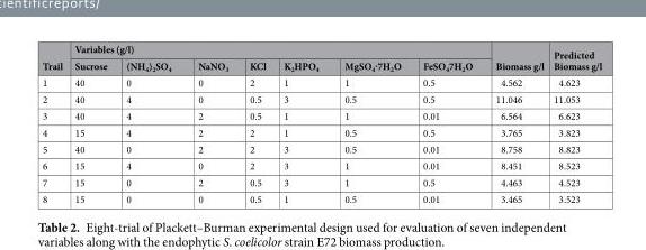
<table><thead><tr><td rowspan="2">Trail</td><td colspan="7">Variables (g/l)</td><td rowspan="2">Biomass g/l</td><td rowspan="2">Predicted Biomass g/l</td></tr><tr><td>Sucrose</td><td>(NH<sub>4</sub>)<sub>2</sub>SO<sub>4</sub></td><td>NaNO<sub>3</sub></td><td>KCl</td><td>K<sub>2</sub>HPO<sub>4</sub></td><td>MgSO<sub>4</sub>·7H<sub>2</sub>O</td><td>FeSO<sub>4</sub>7H<sub>2</sub>O</td></tr></thead><tbody><tr><td>1</td><td>40</td><td>0</td><td>0</td><td>2</td><td>1</td><td>1</td><td>0.5</td><td>4.562</td><td>4.623</td></tr><tr><td>2</td><td>40</td><td>4</td><td>0</td><td>0.5</td><td>3</td><td>0.5</td><td>0.5</td><td>11.046</td><td>11.053</td></tr><tr><td>3</td><td>40</td><td>4</td><td>2</td><td>0.5</td><td>1</td><td>1</td><td>0.01</td><td>6.564</td><td>6.623</td></tr><tr><td>4</td><td>15</td><td>4</td><td>2</td><td>2</td><td>1</td><td>0.5</td><td>0.5</td><td>3.765</td><td>3.823</td></tr><tr><td>5</td><td>40</td><td>0</td><td>2</td><td>2</td><td>3</td><td>0.5</td><td>0.01</td><td>8.758</td><td>8.823</td></tr><tr><td>6</td><td>15</td><td>4</td><td>0</td><td>2</td><td>3</td><td>1</td><td>0.01</td><td>8.451</td><td>8.523</td></tr><tr><td>7</td><td>15</td><td>0</td><td>2</td><td>0.5</td><td>3</td><td>1</td><td>0.5</td><td>4.463</td><td>4.523</td></tr><tr><td>8</td><td>15</td><td>0</td><td>0</td><td>0.5</td><td>1</td><td>0.5</td><td>0.01</td><td>3.465</td><td>3.523</td></tr></tbody></table>